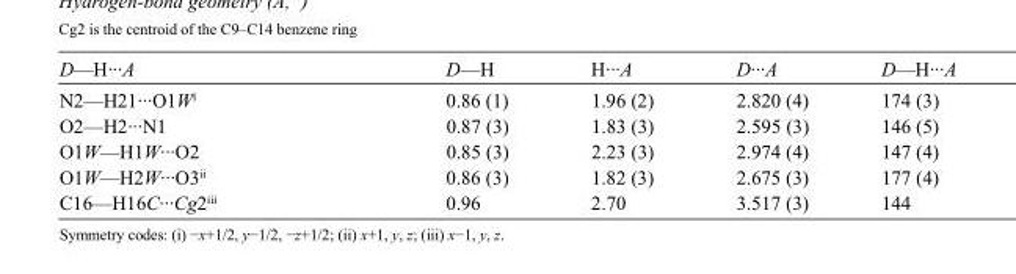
<table><tbody><tr><td>D—H···A</td><td>D—H</td><td>H···A</td><td>D···A</td><td>D—H···A</td></tr><tr><td>N2—H21···O1W<sup>i</sup></td><td>0.86 (1)</td><td>1.96 (2)</td><td>2.820 (4)</td><td>174 (3)</td></tr><tr><td>O2—H2···N1</td><td>0.87 (3)</td><td>1.83 (3)</td><td>2.595 (3)</td><td>146 (5)</td></tr><tr><td>O1W—H1W···O2</td><td>0.85 (3)</td><td>2.23 (3)</td><td>2.974 (4)</td><td>147 (4)</td></tr><tr><td>O1W—H2W···O3<sup>ii</sup></td><td>0.86 (3)</td><td>1.82 (3)</td><td>2.675 (3)</td><td>177 (4)</td></tr><tr><td>C16—H16C···Cg2<sup>iii</sup></td><td>0.96</td><td>2.70</td><td>3.517 (3)</td><td>144</td></tr></tbody></table>